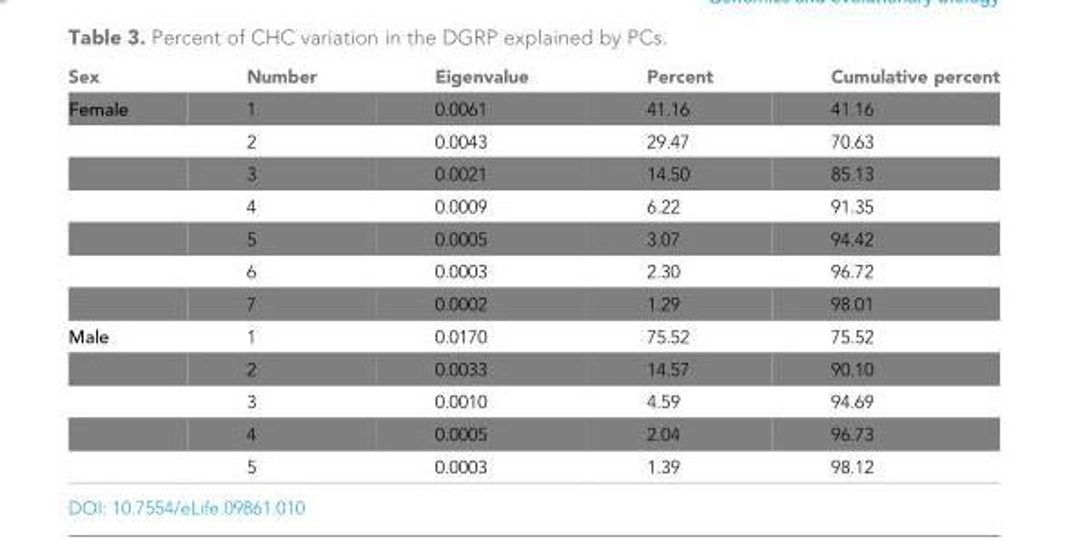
<table><thead><tr><td>Sex</td><td>Number</td><td>Eigenvalue</td><td>Percent</td><td>Cumulative percent</td></tr></thead><tbody><tr><td rowspan="7">Female</td><td>1</td><td>0.0061</td><td>41.16</td><td>41.16</td></tr><tr><td>2</td><td>0.0043</td><td>29.47</td><td>70.63</td></tr><tr><td>3</td><td>0.0021</td><td>14.50</td><td>85.13</td></tr><tr><td>4</td><td>0.0009</td><td>6.22</td><td>91.35</td></tr><tr><td>5</td><td>0.0005</td><td>3.07</td><td>94.42</td></tr><tr><td>6</td><td>0.0003</td><td>2.30</td><td>96.72</td></tr><tr><td>7</td><td>0.0002</td><td>1.29</td><td>98.01</td></tr><tr><td rowspan="5">Male</td><td>1</td><td>0.0170</td><td>75.52</td><td>75.52</td></tr><tr><td>2</td><td>0.0033</td><td>14.57</td><td>90.10</td></tr><tr><td>3</td><td>0.0010</td><td>4.59</td><td>94.69</td></tr><tr><td>4</td><td>0.0005</td><td>2.04</td><td>96.73</td></tr><tr><td>5</td><td>0.0003</td><td>1.39</td><td>98.12</td></tr></tbody></table>